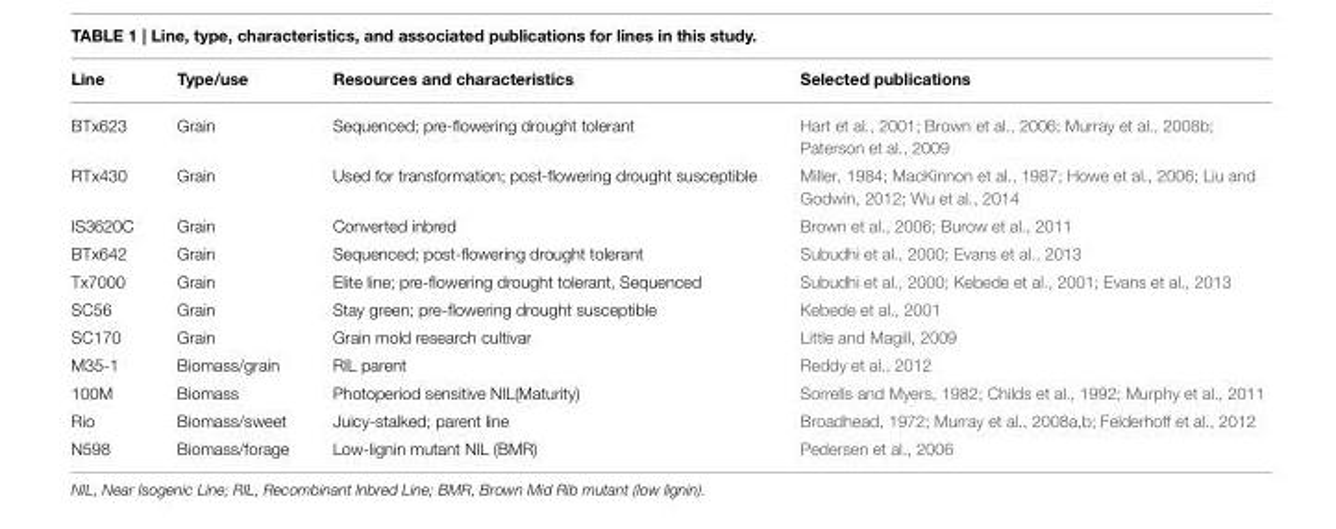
<table><thead><tr><td>Line</td><td>Type/use</td><td>Resources and characteristics</td><td>Selected publications</td></tr></thead><tbody><tr><td>BTx623</td><td>Grain</td><td>Sequenced; pre-flowering drought tolerant</td><td>Hart et al., 2001; Brown et al., 2006; Murray et al., 2008b; Paterson et al., 2009</td></tr><tr><td>RTx430</td><td>Grain</td><td>Used for transformation; post-flowering drought susceptible</td><td>Miller, 1984; MacKinnon et al., 1987; Howe et al., 2006; Liu and Godwin, 2012; Wu et al., 2014</td></tr><tr><td>IS3620C</td><td>Grain</td><td>Converted inbred</td><td>Brown et al., 2006; Burow et al., 2011</td></tr><tr><td>BTx642</td><td>Grain</td><td>Sequenced; post-flowering drought tolerant</td><td>Subudhi et al., 2000; Evans et al., 2013</td></tr><tr><td>Tx7000</td><td>Grain</td><td>Elite line; pre-flowering drought tolerant, Sequenced</td><td>Subudhi et al., 2000; Kebede et al., 2001; Evans et al., 2013</td></tr><tr><td>SC56</td><td>Grain</td><td>Stay green; pre-flowering drought susceptible</td><td>Kebede et al., 2001</td></tr><tr><td>SC170</td><td>Grain</td><td>Grain mold research cultivar</td><td>Little and Magill, 2009</td></tr><tr><td>M35-1</td><td>Biomass/grain</td><td>RIL parent</td><td>Reddy et al., 2012</td></tr><tr><td>100M</td><td>Biomass</td><td>Photoperiod sensitive NIL(Maturity)</td><td>Sorrells and Myers, 1982; Childs et al., 1992; Murphy et al., 2011</td></tr><tr><td>Rio</td><td>Biomass/sweet</td><td>Juicy-stalked; parent line</td><td>Broadhead, 1972; Murray et al., 2008a,b; Felderhoff et al., 2012</td></tr><tr><td>N598</td><td>Biomass/forage</td><td>Low-lignin mutant NIL (BMR)</td><td>Pedersen et al., 2006</td></tr></tbody></table>